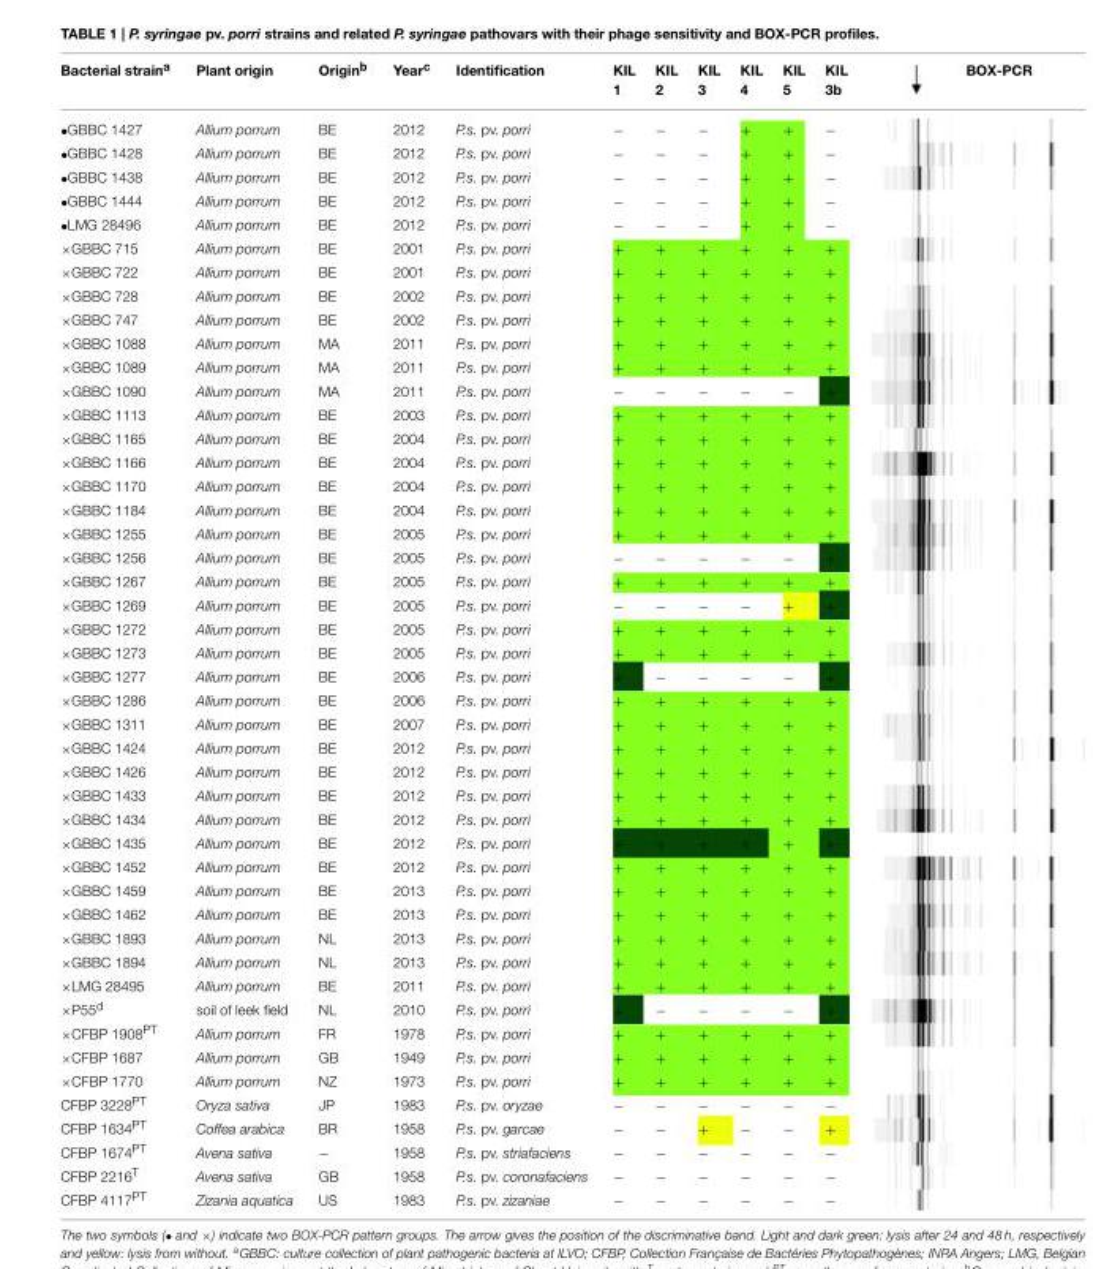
<table><thead><tr><td>Bacterial strain<sup>a</sup></td><td>Plant origin</td><td>Origin<sup>b</sup></td><td>Year<sup>c</sup></td><td>Identification</td><td>KIL 1</td><td>KIL 2</td><td>KIL 3</td><td>KIL 4</td><td>KIL 5</td><td>KIL 3b</td><td>BOX-PCR</td></tr></thead><tbody><tr><td>•GBBC 1427</td><td>Allium porrum</td><td>BE</td><td>2012</td><td>P.s. pv. porri</td><td>−</td><td>−</td><td>−</td><td>+</td><td>+</td><td>−</td><td rowspan="46"></td></tr><tr><td>•GBBC 1428</td><td>Allium porrum</td><td>BE</td><td>2012</td><td>P.s. pv. porri</td><td>−</td><td>−</td><td>−</td><td>+</td><td>+</td><td>−</td></tr><tr><td>•GBBC 1438</td><td>Allium porrum</td><td>BE</td><td>2012</td><td>P.s. pv. porri</td><td>−</td><td>−</td><td>−</td><td>+</td><td>+</td><td>−</td></tr><tr><td>•GBBC 1444</td><td>Allium porrum</td><td>BE</td><td>2012</td><td>P.s. pv. porri</td><td>−</td><td>−</td><td>−</td><td>+</td><td>+</td><td>−</td></tr><tr><td>•LMG 28496</td><td>Allium porrum</td><td>BE</td><td>2012</td><td>P.s. pv. porri</td><td>−</td><td>−</td><td>−</td><td>+</td><td>+</td><td>−</td></tr><tr><td>×GBBC 715</td><td>Allium porrum</td><td>BE</td><td>2001</td><td>P.s. pv. porri</td><td>+</td><td>+</td><td>+</td><td>+</td><td>+</td><td>+</td></tr><tr><td>×GBBC 722</td><td>Allium porrum</td><td>BE</td><td>2001</td><td>P.s. pv. porri</td><td>+</td><td>+</td><td>+</td><td>+</td><td>+</td><td>+</td></tr><tr><td>×GBBC 728</td><td>Allium porrum</td><td>BE</td><td>2002</td><td>P.s. pv. porri</td><td>+</td><td>+</td><td>+</td><td>+</td><td>+</td><td>+</td></tr><tr><td>×GBBC 747</td><td>Allium porrum</td><td>BE</td><td>2002</td><td>P.s. pv. porri</td><td>+</td><td>+</td><td>+</td><td>+</td><td>+</td><td>+</td></tr><tr><td>×GBBC 1088</td><td>Allium porrum</td><td>MA</td><td>2011</td><td>P.s. pv. porri</td><td>+</td><td>+</td><td>+</td><td>+</td><td>+</td><td>+</td></tr><tr><td>×GBBC 1089</td><td>Allium porrum</td><td>MA</td><td>2011</td><td>P.s. pv. porri</td><td>+</td><td>+</td><td>+</td><td>+</td><td>+</td><td>+</td></tr><tr><td>×GBBC 1090</td><td>Allium porrum</td><td>MA</td><td>2011</td><td>P.s. pv. porri</td><td>−</td><td>−</td><td>−</td><td>−</td><td>−</td><td>+</td></tr><tr><td>×GBBC 1113</td><td>Allium porrum</td><td>BE</td><td>2003</td><td>P.s. pv. porri</td><td>+</td><td>+</td><td>+</td><td>+</td><td>+</td><td>+</td></tr><tr><td>×GBBC 1165</td><td>Allium porrum</td><td>BE</td><td>2004</td><td>P.s. pv. porri</td><td>+</td><td>+</td><td>+</td><td>+</td><td>+</td><td>+</td></tr><tr><td>×GBBC 1166</td><td>Allium porrum</td><td>BE</td><td>2004</td><td>P.s. pv. porri</td><td>+</td><td>+</td><td>+</td><td>+</td><td>+</td><td>+</td></tr><tr><td>×GBBC 1170</td><td>Allium porrum</td><td>BE</td><td>2004</td><td>P.s. pv. porri</td><td>+</td><td>+</td><td>+</td><td>+</td><td>+</td><td>+</td></tr><tr><td>×GBBC 1184</td><td>Allium porrum</td><td>BE</td><td>2004</td><td>P.s. pv. porri</td><td>+</td><td>+</td><td>+</td><td>+</td><td>+</td><td>+</td></tr><tr><td>×GBBC 1255</td><td>Allium porrum</td><td>BE</td><td>2005</td><td>P.s. pv. porri</td><td>+</td><td>+</td><td>+</td><td>+</td><td>+</td><td>+</td></tr><tr><td>×GBBC 1256</td><td>Allium porrum</td><td>BE</td><td>2005</td><td>P.s. pv. porri</td><td>−</td><td>−</td><td>−</td><td>−</td><td>−</td><td>+</td></tr><tr><td>×GBBC 1267</td><td>Allium porrum</td><td>BE</td><td>2005</td><td>P.s. pv. porri</td><td>+</td><td>+</td><td>+</td><td>+</td><td>+</td><td>+</td></tr><tr><td>×GBBC 1269</td><td>Allium porrum</td><td>BE</td><td>2005</td><td>P.s. pv. porri</td><td>−</td><td>−</td><td>−</td><td>−</td><td>+</td><td>+</td></tr><tr><td>×GBBC 1272</td><td>Allium porrum</td><td>BE</td><td>2005</td><td>P.s. pv. porri</td><td>+</td><td>+</td><td>+</td><td>+</td><td>+</td><td>+</td></tr><tr><td>×GBBC 1273</td><td>Allium porrum</td><td>BE</td><td>2005</td><td>P.s. pv. porri</td><td>+</td><td>+</td><td>+</td><td>+</td><td>+</td><td>+</td></tr><tr><td>×GBBC 1277</td><td>Allium porrum</td><td>BE</td><td>2006</td><td>P.s. pv. porri</td><td>+</td><td>−</td><td>−</td><td>−</td><td>−</td><td>+</td></tr><tr><td>×GBBC 1286</td><td>Allium porrum</td><td>BE</td><td>2006</td><td>P.s. pv. porri</td><td>+</td><td>+</td><td>+</td><td>+</td><td>+</td><td>+</td></tr><tr><td>×GBBC 1311</td><td>Allium porrum</td><td>BE</td><td>2007</td><td>P.s. pv. porri</td><td>+</td><td>+</td><td>+</td><td>+</td><td>+</td><td>+</td></tr><tr><td>×GBBC 1424</td><td>Allium porrum</td><td>BE</td><td>2012</td><td>P.s. pv. porri</td><td>+</td><td>+</td><td>+</td><td>+</td><td>+</td><td>+</td></tr><tr><td>×GBBC 1426</td><td>Allium porrum</td><td>BE</td><td>2012</td><td>P.s. pv. porri</td><td>+</td><td>+</td><td>+</td><td>+</td><td>+</td><td>+</td></tr><tr><td>×GBBC 1433</td><td>Allium porrum</td><td>BE</td><td>2012</td><td>P.s. pv. porri</td><td>+</td><td>+</td><td>+</td><td>+</td><td>+</td><td>+</td></tr><tr><td>×GBBC 1434</td><td>Allium porrum</td><td>BE</td><td>2012</td><td>P.s. pv. porri</td><td>+</td><td>+</td><td>+</td><td>+</td><td>+</td><td>+</td></tr><tr><td>×GBBC 1435</td><td>Allium porrum</td><td>BE</td><td>2012</td><td>P.s. pv. porri</td><td>+</td><td>+</td><td>+</td><td>+</td><td>+</td><td>+</td></tr><tr><td>×GBBC 1452</td><td>Allium porrum</td><td>BE</td><td>2012</td><td>P.s. pv. porri</td><td>+</td><td>+</td><td>+</td><td>+</td><td>+</td><td>+</td></tr><tr><td>×GBBC 1459</td><td>Allium porrum</td><td>BE</td><td>2013</td><td>P.s. pv. porri</td><td>+</td><td>+</td><td>+</td><td>+</td><td>+</td><td>+</td></tr><tr><td>×GBBC 1462</td><td>Allium porrum</td><td>BE</td><td>2013</td><td>P.s. pv. porri</td><td>+</td><td>+</td><td>+</td><td>+</td><td>+</td><td>+</td></tr><tr><td>×GBBC 1893</td><td>Allium porrum</td><td>NL</td><td>2013</td><td>P.s. pv. porri</td><td>+</td><td>+</td><td>+</td><td>+</td><td>+</td><td>+</td></tr><tr><td>×GBBC 1894</td><td>Allium porrum</td><td>NL</td><td>2013</td><td>P.s. pv. porri</td><td>+</td><td>+</td><td>+</td><td>+</td><td>+</td><td>+</td></tr><tr><td>×LMG 28495</td><td>Allium porrum</td><td>BE</td><td>2011</td><td>P.s. pv. porri</td><td>+</td><td>+</td><td>+</td><td>+</td><td>+</td><td>+</td></tr><tr><td>×P55<sup>d</sup></td><td>soil of leek field</td><td>NL</td><td>2010</td><td>P.s. pv. porri</td><td>+</td><td>−</td><td>−</td><td>−</td><td>−</td><td>+</td></tr><tr><td>×CFBP 1908<sup>PT</sup></td><td>Allium porrum</td><td>FR</td><td>1978</td><td>P.s. pv. porri</td><td>+</td><td>+</td><td>+</td><td>+</td><td>+</td><td>+</td></tr><tr><td>×CFBP 1687</td><td>Allium porrum</td><td>GB</td><td>1949</td><td>P.s. pv. porri</td><td>+</td><td>+</td><td>+</td><td>+</td><td>+</td><td>+</td></tr><tr><td>×CFBP 1770</td><td>Allium porrum</td><td>NZ</td><td>1973</td><td>P.s. pv. porri</td><td>+</td><td>+</td><td>+</td><td>+</td><td>+</td><td>+</td></tr><tr><td>CFBP 3228<sup>PT</sup></td><td>Oryza sativa</td><td>JP</td><td>1983</td><td>P.s. pv. oryzae</td><td>−</td><td>−</td><td>−</td><td>−</td><td>−</td><td>−</td></tr><tr><td>CFBP 1634<sup>PT</sup></td><td>Coffea arabica</td><td>BR</td><td>1958</td><td>P.s. pv. garcae</td><td>−</td><td>−</td><td>+</td><td>−</td><td>−</td><td>+</td></tr><tr><td>CFBP 1674<sup>PT</sup></td><td>Avena sativa</td><td>−</td><td>1958</td><td>P.s. pv. striafaciens</td><td>−</td><td>−</td><td>−</td><td>−</td><td>−</td><td>−</td></tr><tr><td>CFBP 2216<sup>T</sup></td><td>Avena sativa</td><td>GB</td><td>1958</td><td>P.s. pv. coronafaciens</td><td>−</td><td>−</td><td>−</td><td>−</td><td>−</td><td>−</td></tr><tr><td>CFBP 4117<sup>PT</sup></td><td>Zizania aquatica</td><td>US</td><td>1983</td><td>P.s. pv. zizaniae</td><td>−</td><td>−</td><td>−</td><td>−</td><td>−</td><td>−</td></tr></tbody></table>